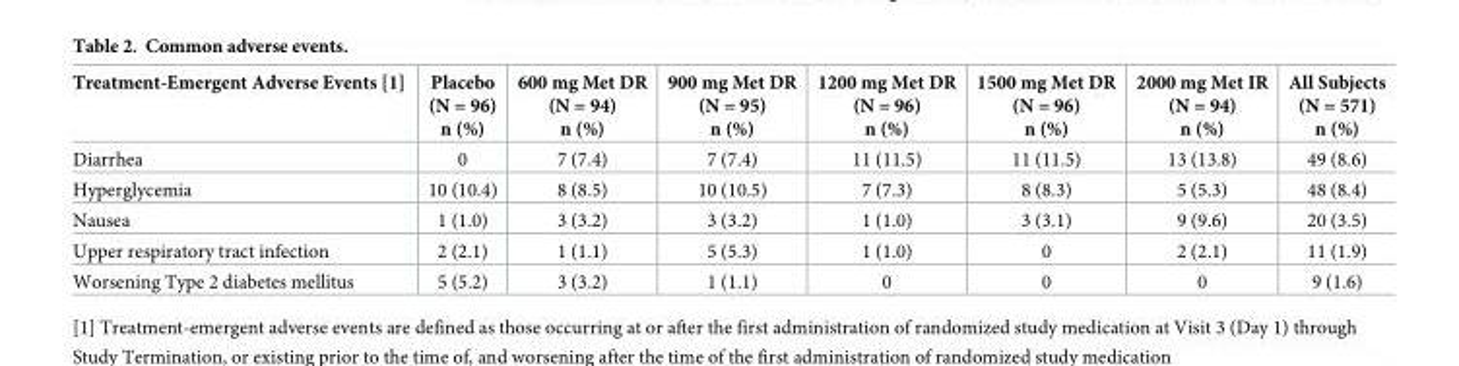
<table><thead><tr><td>Treatment-Emergent Adverse Events [1]</td><td>Placebo (N = 96) n (%)</td><td>600 mg Met DR (N = 94) n (%)</td><td>900 mg Met DR (N = 95) n (%)</td><td>1200 mg Met DR (N = 96) n (%)</td><td>1500 mg Met DR (N = 96) n (%)</td><td>2000 mg Met IR (N = 94) n (%)</td><td>All Subjects (N = 571) n (%)</td></tr></thead><tbody><tr><td>Diarrhea</td><td>0</td><td>7 (7.4)</td><td>7 (7.4)</td><td>11 (11.5)</td><td>11 (11.5)</td><td>13 (13.8)</td><td>49 (8.6)</td></tr><tr><td>Hyperglycemia</td><td>10 (10.4)</td><td>8 (8.5)</td><td>10 (10.5)</td><td>7 (7.3)</td><td>8 (8.3)</td><td>5 (5.3)</td><td>48 (8.4)</td></tr><tr><td>Nausea</td><td>1 (1.0)</td><td>3 (3.2)</td><td>3 (3.2)</td><td>1 (1.0)</td><td>3 (3.1)</td><td>9 (9.6)</td><td>20 (3.5)</td></tr><tr><td>Upper respiratory tract infection</td><td>2 (2.1)</td><td>1 (1.1)</td><td>5 (5.3)</td><td>1 (1.0)</td><td>0</td><td>2 (2.1)</td><td>11 (1.9)</td></tr><tr><td>Worsening Type 2 diabetes mellitus</td><td>5 (5.2)</td><td>3 (3.2)</td><td>1 (1.1)</td><td>0</td><td>0</td><td>0</td><td>9 (1.6)</td></tr></tbody></table>